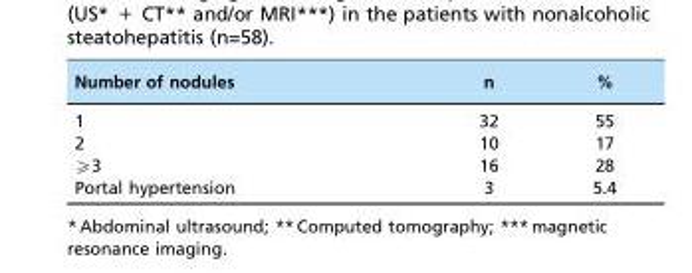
<table><thead><tr><td>Number of nodules</td><td>n</td><td>%</td></tr></thead><tbody><tr><td>1</td><td>32</td><td>55</td></tr><tr><td>2</td><td>10</td><td>17</td></tr><tr><td>≥3</td><td>16</td><td>28</td></tr><tr><td>Portal hypertension</td><td>3</td><td>5.4</td></tr></tbody></table>